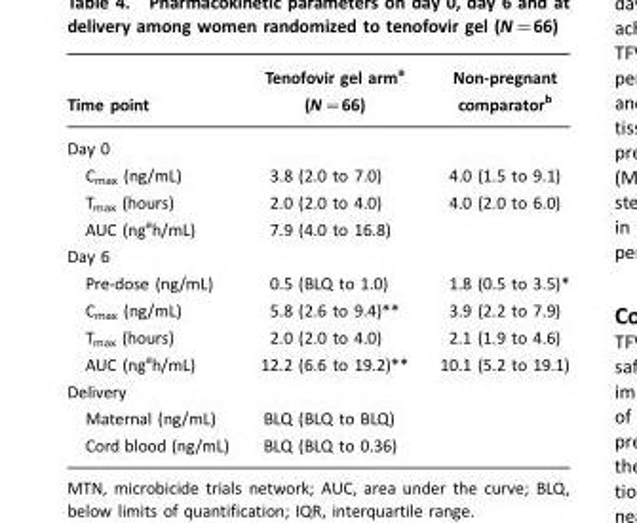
<table><thead><tr><td>Time point</td><td>Tenofovir gel arm<sup>a</sup> (N=66)</td><td>Non-pregnant comparator<sup>b</sup></td></tr></thead><tbody><tr><td colspan="3">Day 0</td></tr><tr><td>C<sub>max</sub> (ng/mL)</td><td>3.8 (2.0 to 7.0)</td><td>4.0 (1.5 to 9.1)</td></tr><tr><td>T<sub>max</sub> (hours)</td><td>2.0 (2.0 to 4.0)</td><td>4.0 (2.0 to 6.0)</td></tr><tr><td>AUC (ng<sup>a</sup>h/mL)</td><td>7.9 (4.0 to 16.8)</td><td></td></tr><tr><td colspan="3">Day 6</td></tr><tr><td>Pre-dose (ng/mL)</td><td>0.5 (BLQ to 1.0)</td><td>1.8 (0.5 to 3.5)*</td></tr><tr><td>C<sub>max</sub> (ng/mL)</td><td>5.8 (2.6 to 9.4)**</td><td>3.9 (2.2 to 7.9)</td></tr><tr><td>T<sub>max</sub> (hours)</td><td>2.0 (2.0 to 4.0)</td><td>2.1 (1.9 to 4.6)</td></tr><tr><td>AUC (ng<sup>a</sup>h/mL)</td><td>12.2 (6.6 to 19.2)**</td><td>10.1 (5.2 to 19.1)</td></tr><tr><td colspan="3">Delivery</td></tr><tr><td>Maternal (ng/mL)</td><td>BLQ (BLQ to BLQ)</td><td></td></tr><tr><td>Cord blood (ng/mL)</td><td>BLQ (BLQ to 0.36)</td><td></td></tr></tbody></table>